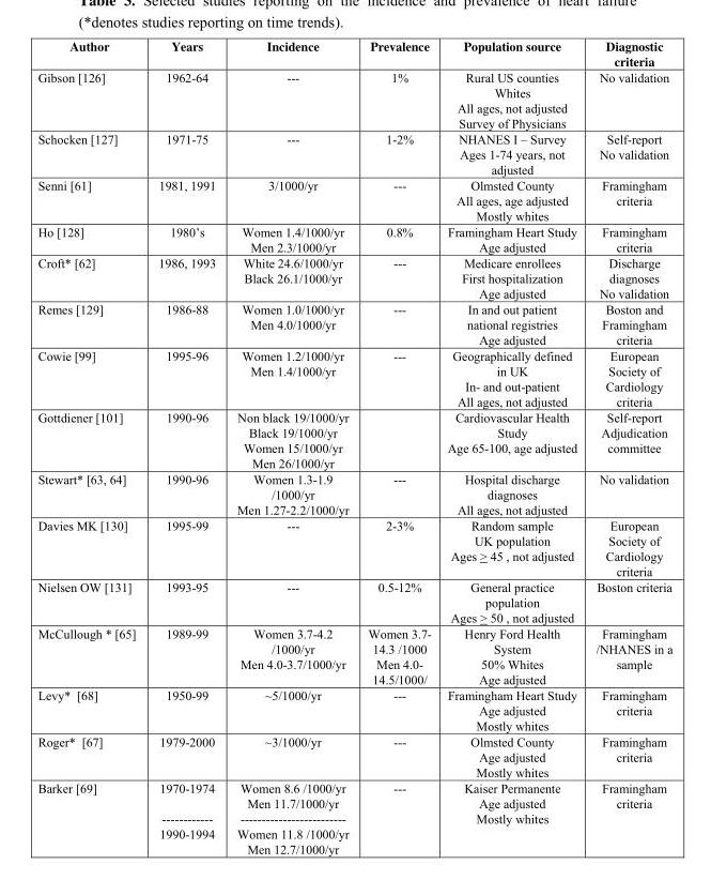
<table><thead><tr><td>Author</td><td>Years</td><td>Incidence</td><td>Prevalence</td><td>Population source</td><td>Diagnostic criteria</td></tr></thead><tbody><tr><td>Gibson [126]</td><td>1962-64</td><td>---</td><td>1%</td><td>Rural US counties Whites All ages, not adjusted Survey of Physicians</td><td>No validation</td></tr><tr><td>Schocken [127]</td><td>1971-75</td><td>---</td><td>1-2%</td><td>NHANES I – Survey Ages 1-74 years, not adjusted</td><td>Self-report No validation</td></tr><tr><td>Senni [61]</td><td>1981, 1991</td><td>3/1000/yr</td><td>---</td><td>Olmsted County All ages, age adjusted Mostly whites</td><td>Framingham criteria</td></tr><tr><td>Ho [128]</td><td>1980’s</td><td>Women 1.4/1000/yr Men 2.3/1000/yr</td><td>0.8%</td><td>Framingham Heart Study Age adjusted</td><td>Framingham criteria</td></tr><tr><td>Croft* [62]</td><td>1986, 1993</td><td>White 24.6/1000/yr Black 26.1/1000/yr</td><td>---</td><td>Medicare enrollees First hospitalization Age adjusted</td><td>Discharge diagnoses No validation</td></tr><tr><td>Remes [129]</td><td>1986-88</td><td>Women 1.0/1000/yr Men 4.0/1000/yr</td><td>---</td><td>In and out patient national registries Age adjusted</td><td>Boston and Framingham criteria</td></tr><tr><td>Cowie [99]</td><td>1995-96</td><td>Women 1.2/1000/yr Men 1.4/1000/yr</td><td>---</td><td>Geographically defined in UK In- and out-patient All ages, not adjusted</td><td>European Society of Cardiology criteria</td></tr><tr><td>Gottdiener [101]</td><td>1990-96</td><td>Non black 19/1000/yr Black 19/1000/yr Women 15/1000/yr Men 26/1000/yr</td><td></td><td>Cardiovascular Health Study Age 65-100, age adjusted</td><td>Self-report Adjudication committee</td></tr><tr><td>Stewart* [63, 64]</td><td>1990-96</td><td>Women 1.3-1.9 /1000/yr Men 1.27-2.2/1000/yr</td><td>---</td><td>Hospital discharge diagnoses All ages, not adjusted</td><td>No validation</td></tr><tr><td>Davies MK [130]</td><td>1995-99</td><td>---</td><td>2-3%</td><td>Random sample UK population Ages &gt; 45 , not adjusted</td><td>European Society of Cardiology criteria</td></tr><tr><td>Nielsen OW [131]</td><td>1993-95</td><td>---</td><td>0.5-12%</td><td>General practice population Ages &gt; 50 , not adjusted</td><td>Boston criteria</td></tr><tr><td>McCullough * [65]</td><td>1989-99</td><td>Women 3.7-4.2 /1000/yr Men 4.0-3.7/1000/yr</td><td>Women 3.7- 14.3 /1000 Men 4.0- 14.5/1000/</td><td>Henry Ford Health System 50% Whites Age adjusted</td><td>Framingham /NHANES in a sample</td></tr><tr><td>Levy* [68]</td><td>1950-99</td><td>~5/1000/yr</td><td>---</td><td>Framingham Heart Study Age adjusted Mostly whites</td><td>Framingham criteria</td></tr><tr><td>Roger* [67]</td><td>1979-2000</td><td>~3/1000/yr</td><td>---</td><td>Olmsted County Age adjusted Mostly whites</td><td>Framingham criteria</td></tr><tr><td>Barker [69]</td><td>1970-1974 ------------ 1990-1994</td><td>Women 8.6 /1000/yr Men 11.7/1000/yr ------------------------- Women 11.8 /1000/yr Men 12.7/1000/yr</td><td>---</td><td>Kaiser Permanente Age adjusted Mostly whites</td><td>Framingham criteria</td></tr></tbody></table>